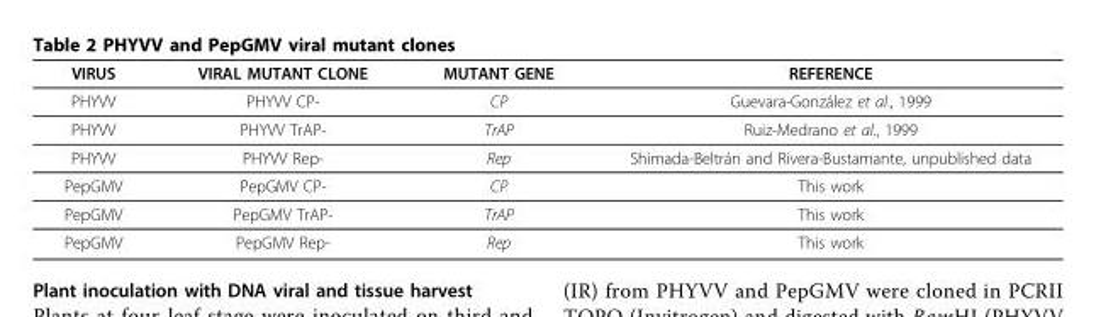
<table><thead><tr><td>VIRUS</td><td>VIRAL MUTANT CLONE</td><td>MUTANT GENE</td><td>REFERENCE</td></tr></thead><tbody><tr><td>PHYVV</td><td>PHYVV CP-</td><td>CP</td><td>Guevara-González et al., 1999</td></tr><tr><td>PHYVV</td><td>PHYVV TrAP-</td><td>TrAP</td><td>Ruiz-Medrano et al., 1999</td></tr><tr><td>PHYVV</td><td>PHYVV Rep-</td><td>Rep</td><td>Shimada-Beltrán and Rivera-Bustamante, unpublished data</td></tr><tr><td>PepGMV</td><td>PepGMV CP-</td><td>CP</td><td>This work</td></tr><tr><td>PepGMV</td><td>PepGMV TrAP-</td><td>TrAP</td><td>This work</td></tr><tr><td>PepGMV</td><td>PepGMV Rep-</td><td>Rep</td><td>This work</td></tr></tbody></table>